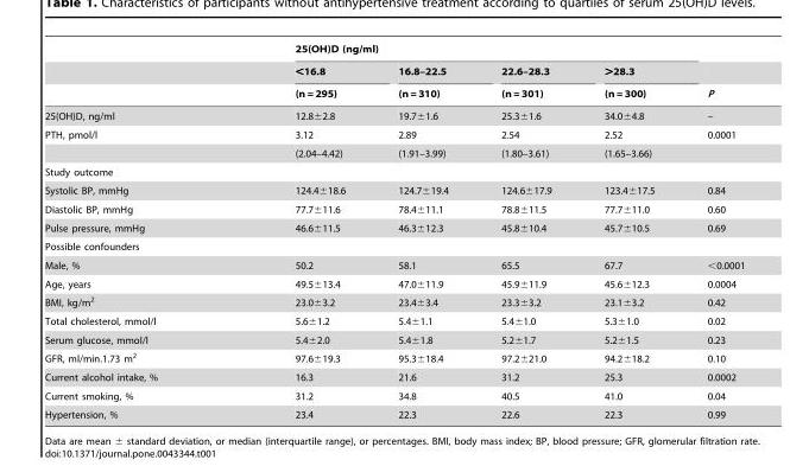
<table><thead><tr><td rowspan="3"></td><td colspan="4">25(OH)D (ng/ml)</td><td rowspan="3">P</td></tr><tr><td rowspan="2">&lt;16.8 (n = 295)</td><td rowspan="2">16.8–22.5 (n = 310)</td><td rowspan="2">22.6–28.3 (n = 301)</td><td rowspan="2">&gt;28.3 (n = 300)</td></tr><tr></tr></thead><tbody><tr><td>25(OH)D, ng/ml</td><td>12.8±2.8</td><td>19.7±1.6</td><td>25.3±1.6</td><td>34.0±4.8</td><td>–</td></tr><tr><td rowspan="2">PTH, pmol/l</td><td>3.12</td><td>2.89</td><td>2.54</td><td>2.52</td><td>0.0001</td></tr><tr><td>(2.04–4.42)</td><td>(1.91–3.99)</td><td>(1.80–3.61)</td><td>(1.65–3.66)</td><td></td></tr><tr><td colspan="6">Study outcome</td></tr><tr><td>Systolic BP, mmHg</td><td>124.4±18.6</td><td>124.7±19.4</td><td>124.6±17.9</td><td>123.4±17.5</td><td>0.84</td></tr><tr><td>Diastolic BP, mmHg</td><td>77.7±11.6</td><td>78.4±11.1</td><td>78.8±11.5</td><td>77.7±11.0</td><td>0.60</td></tr><tr><td>Pulse pressure, mmHg</td><td>46.6±11.5</td><td>46.3±12.3</td><td>45.8±10.4</td><td>45.7±10.5</td><td>0.69</td></tr><tr><td colspan="6">Possible confounders</td></tr><tr><td>Male, %</td><td>50.2</td><td>58.1</td><td>65.5</td><td>67.7</td><td>&lt;0.0001</td></tr><tr><td>Age, years</td><td>49.5±13.4</td><td>47.0±11.9</td><td>45.9±11.9</td><td>45.6±12.3</td><td>0.0004</td></tr><tr><td>BMI, kg/m<sup>2</sup></td><td>23.0±3.2</td><td>23.4±3.4</td><td>23.3±3.2</td><td>23.1±3.2</td><td>0.42</td></tr><tr><td>Total cholesterol, mmol/l</td><td>5.6±1.2</td><td>5.4±1.1</td><td>5.4±1.0</td><td>5.3±1.0</td><td>0.02</td></tr><tr><td>Serum glucose, mmol/l</td><td>5.4±2.0</td><td>5.4±1.8</td><td>5.2±1.7</td><td>5.2±1.5</td><td>0.23</td></tr><tr><td>GFR, ml/min.1.73 m<sup>2</sup></td><td>97.6±19.3</td><td>95.3±18.4</td><td>97.2±21.0</td><td>94.2±18.2</td><td>0.10</td></tr><tr><td>Current alcohol intake, %</td><td>16.3</td><td>21.6</td><td>31.2</td><td>25.3</td><td>0.0002</td></tr><tr><td>Current smoking, %</td><td>31.2</td><td>34.8</td><td>40.5</td><td>41.0</td><td>0.04</td></tr><tr><td>Hypertension, %</td><td>23.4</td><td>22.3</td><td>22.6</td><td>22.3</td><td>0.99</td></tr></tbody></table>